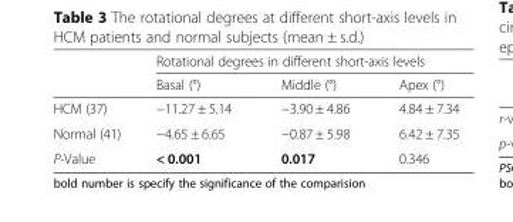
<table><thead><tr><td rowspan="2"></td><td colspan="3">Rotational degrees in different short-axis levels</td></tr><tr><td>Basal (°)</td><td>Middle (°)</td><td>Apex (°)</td></tr></thead><tbody><tr><td>HCM (37)</td><td>−11.27 ± 5.14</td><td>−3.90 ± 4.86</td><td>4.84 ± 7.34</td></tr><tr><td>Normal (41)</td><td>−4.65 ± 6.65</td><td>−0.87 ± 5.98</td><td>6.42 ± 7.35</td></tr><tr><td>P-Value</td><td>&lt; 0.001</td><td>0.017</td><td>0.346</td></tr></tbody></table>